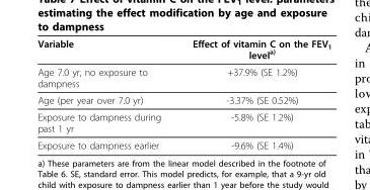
<table><thead><tr><td>Variable</td><td>Effect of vitamin C on the FEV1 levela)</td></tr></thead><tbody><tr><td>Age 7.0 yr, no exposure to dampness</td><td>+37.9% (SE 1.2%)</td></tr><tr><td>Age (per year over 7.0 yr)</td><td>-3.37% (SE 0.52%)</td></tr><tr><td>Exposure to dampness during past 1 yr</td><td>-5.8% (SE 1.2%)</td></tr><tr><td>Exposure to dampness earlier</td><td>-9.6% (SE 1.4%)</td></tr></tbody></table>